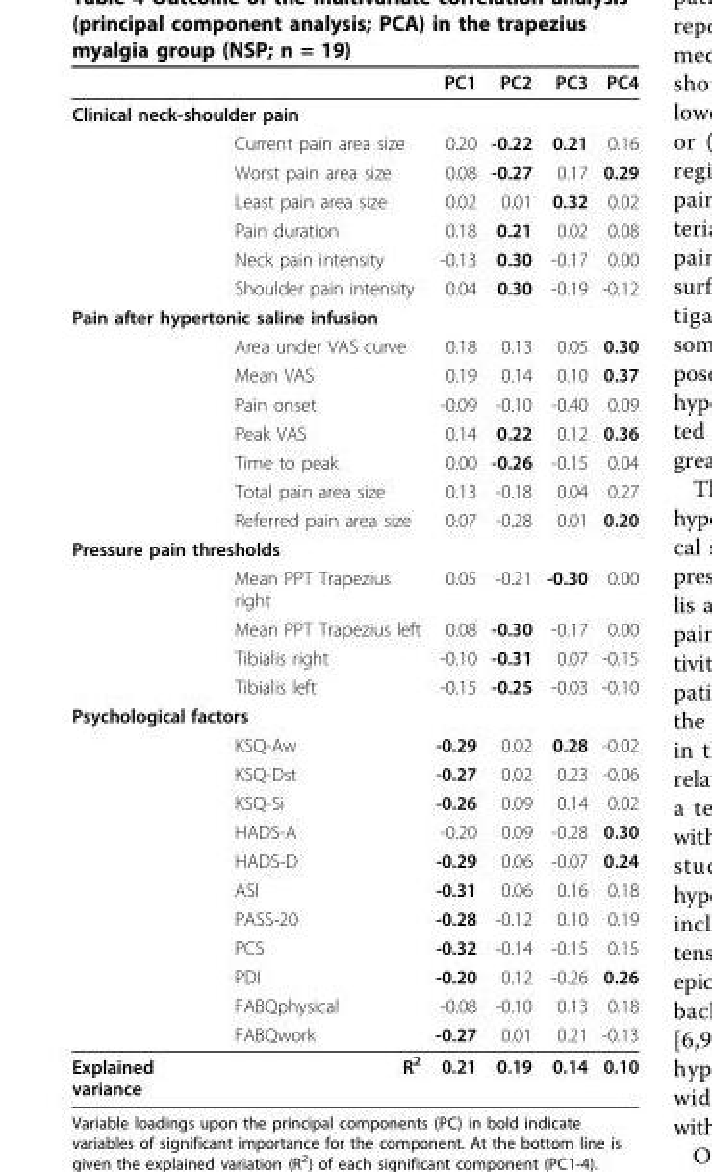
<table><thead><tr><td></td><td></td><td>PC1</td><td>PC2</td><td>PC3</td><td>PC4</td></tr></thead><tbody><tr><td colspan="6">Clinical neck-shoulder pain</td></tr><tr><td></td><td>Current pain area size</td><td>0.20</td><td>-0.22</td><td>0.21</td><td>0.16</td></tr><tr><td></td><td>Worst pain area size</td><td>0.08</td><td>-0.27</td><td>0.17</td><td>0.29</td></tr><tr><td></td><td>Least pain area size</td><td>0.02</td><td>0.01</td><td>0.32</td><td>0.02</td></tr><tr><td></td><td>Pain duration</td><td>0.18</td><td>0.21</td><td>0.02</td><td>0.08</td></tr><tr><td></td><td>Neck pain intensity</td><td>-0.13</td><td>0.30</td><td>-0.17</td><td>0.00</td></tr><tr><td></td><td>Shoulder pain intensity</td><td>0.04</td><td>0.30</td><td>-0.19</td><td>-0.12</td></tr><tr><td colspan="6">Pain after hypertonic saline infusion</td></tr><tr><td></td><td>Area under VAS curve</td><td>0.18</td><td>0.13</td><td>0.05</td><td>0.30</td></tr><tr><td></td><td>Mean VAS</td><td>0.19</td><td>0.14</td><td>0.10</td><td>0.37</td></tr><tr><td></td><td>Pain onset</td><td>-0.09</td><td>-0.10</td><td>-0.40</td><td>0.09</td></tr><tr><td></td><td>Peak VAS</td><td>0.14</td><td>0.22</td><td>0.12</td><td>0.36</td></tr><tr><td></td><td>Time to peak</td><td>0.00</td><td>-0.26</td><td>-0.15</td><td>0.04</td></tr><tr><td></td><td>Total pain area size</td><td>0.13</td><td>-0.18</td><td>0.04</td><td>0.27</td></tr><tr><td></td><td>Referred pain area size</td><td>0.07</td><td>-0.28</td><td>0.01</td><td>0.20</td></tr><tr><td colspan="6">Pressure pain thresholds</td></tr><tr><td></td><td>Mean PPT Trapezius right</td><td>0.05</td><td>-0.21</td><td>-0.30</td><td>0.00</td></tr><tr><td></td><td>Mean PPT Trapezius left</td><td>0.08</td><td>-0.30</td><td>-0.17</td><td>0.00</td></tr><tr><td></td><td>Tibialis right</td><td>-0.10</td><td>-0.31</td><td>0.07</td><td>-0.15</td></tr><tr><td></td><td>Tibialis left</td><td>-0.15</td><td>-0.25</td><td>-0.03</td><td>-0.10</td></tr><tr><td colspan="6">Psychological factors</td></tr><tr><td></td><td>KSQ-Aw</td><td>-0.29</td><td>0.02</td><td>0.28</td><td>-0.02</td></tr><tr><td></td><td>KSQ-Dst</td><td>-0.27</td><td>0.02</td><td>0.23</td><td>-0.06</td></tr><tr><td></td><td>KSQ-Si</td><td>-0.26</td><td>0.09</td><td>0.14</td><td>0.02</td></tr><tr><td></td><td>HADS-A</td><td>-0.20</td><td>0.09</td><td>-0.28</td><td>0.30</td></tr><tr><td></td><td>HADS-D</td><td>-0.29</td><td>0.06</td><td>-0.07</td><td>0.24</td></tr><tr><td></td><td>ASI</td><td>-0.31</td><td>0.06</td><td>0.16</td><td>0.18</td></tr><tr><td></td><td>PASS-20</td><td>-0.28</td><td>-0.12</td><td>0.10</td><td>0.19</td></tr><tr><td></td><td>PCS</td><td>-0.32</td><td>-0.14</td><td>-0.15</td><td>0.15</td></tr><tr><td></td><td>PDI</td><td>-0.20</td><td>0.12</td><td>-0.26</td><td>0.26</td></tr><tr><td></td><td>FABQphysical</td><td>-0.08</td><td>-0.10</td><td>0.13</td><td>0.18</td></tr><tr><td></td><td>FABQwork</td><td>-0.27</td><td>0.01</td><td>0.21</td><td>-0.13</td></tr><tr><td>Explained variance</td><td>R<sup>2</sup></td><td>0.21</td><td>0.19</td><td>0.14</td><td>0.10</td></tr></tbody></table>